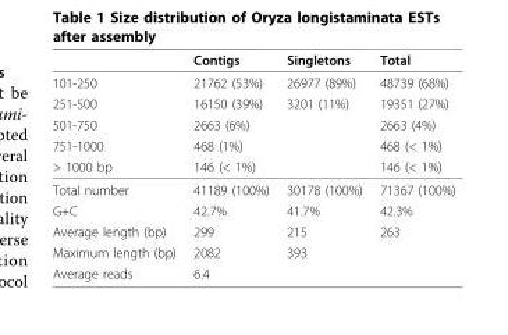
<table><thead><tr><td></td><td>Contigs</td><td>Singletons</td><td>Total</td></tr></thead><tbody><tr><td>101-250</td><td>21762 (53%)</td><td>26977 (89%)</td><td>48739 (68%)</td></tr><tr><td>251-500</td><td>16150 (39%)</td><td>3201 (11%)</td><td>19351 (27%)</td></tr><tr><td>501-750</td><td>2663 (6%)</td><td></td><td>2663 (4%)</td></tr><tr><td>751-1000</td><td>468 (1%)</td><td></td><td>468 (&lt; 1%)</td></tr><tr><td>&gt; 1000 bp</td><td>146 (&lt; 1%)</td><td></td><td>146 (&lt; 1%)</td></tr><tr><td>Total number</td><td>41189 (100%)</td><td>30178 (100%)</td><td>71367 (100%)</td></tr><tr><td>G+C</td><td>42.7%</td><td>41.7%</td><td>42.3%</td></tr><tr><td>Average length (bp)</td><td>299</td><td>215</td><td>263</td></tr><tr><td>Maximum length (bp)</td><td>2082</td><td>393</td><td></td></tr><tr><td>Average reads</td><td>6.4</td><td></td><td></td></tr></tbody></table>